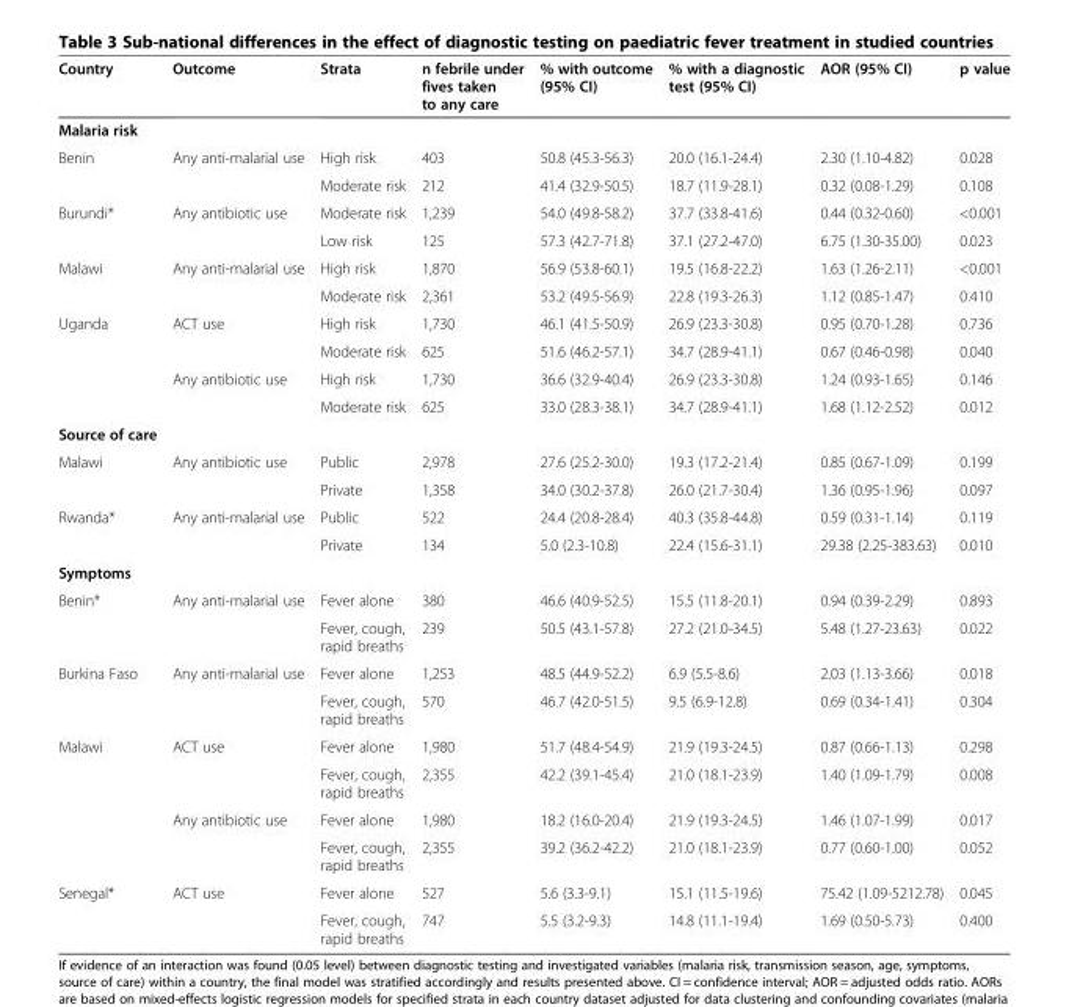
<table><thead><tr><td>Country</td><td>Outcome</td><td>Strata</td><td>n febrile under fives taken to any care</td><td>% with outcome (95% CI)</td><td>% with a diagnostic test (95% CI)</td><td>AOR (95% CI)</td><td>p value</td></tr></thead><tbody><tr><td colspan="8">Malaria risk</td></tr><tr><td rowspan="2">Benin</td><td>Any anti-malarial use</td><td>High risk</td><td>403</td><td>50.8 (45.3-56.3)</td><td>20.0 (16.1-24.4)</td><td>2.30 (1.10-4.82)</td><td>0.028</td></tr><tr><td></td><td>Moderate risk</td><td>212</td><td>41.4 (32.9-50.5)</td><td>18.7 (11.9-28.1)</td><td>0.32 (0.08-1.29)</td><td>0.108</td></tr><tr><td rowspan="2">Burundi*</td><td>Any antibiotic use</td><td>Moderate risk</td><td>1,239</td><td>54.0 (49.8-58.2)</td><td>37.7 (33.8-41.6)</td><td>0.44 (0.32-0.60)</td><td>&lt;0.001</td></tr><tr><td></td><td>Low risk</td><td>125</td><td>57.3 (42.7-71.8)</td><td>37.1 (27.2-47.0)</td><td>6.75 (1.30-35.00)</td><td>0.023</td></tr><tr><td rowspan="2">Malawi</td><td>Any anti-malarial use</td><td>High risk</td><td>1,870</td><td>56.9 (53.8-60.1)</td><td>19.5 (16.8-22.2)</td><td>1.63 (1.26-2.11)</td><td>&lt;0.001</td></tr><tr><td></td><td>Moderate risk</td><td>2,361</td><td>53.2 (49.5-56.9)</td><td>22.8 (19.3-26.3)</td><td>1.12 (0.85-1.47)</td><td>0.410</td></tr><tr><td rowspan="4">Uganda</td><td>ACT use</td><td>High risk</td><td>1,730</td><td>46.1 (41.5-50.9)</td><td>26.9 (23.3-30.8)</td><td>0.95 (0.70-1.28)</td><td>0.736</td></tr><tr><td></td><td>Moderate risk</td><td>625</td><td>51.6 (46.2-57.1)</td><td>34.7 (28.9-41.1)</td><td>0.67 (0.46-0.98)</td><td>0.040</td></tr><tr><td>Any antibiotic use</td><td>High risk</td><td>1,730</td><td>36.6 (32.9-40.4)</td><td>26.9 (23.3-30.8)</td><td>1.24 (0.93-1.65)</td><td>0.146</td></tr><tr><td></td><td>Moderate risk</td><td>625</td><td>33.0 (28.3-38.1)</td><td>34.7 (28.9-41.1)</td><td>1.68 (1.12-2.52)</td><td>0.012</td></tr><tr><td colspan="8">Source of care</td></tr><tr><td rowspan="2">Malawi</td><td>Any antibiotic use</td><td>Public</td><td>2,978</td><td>27.6 (25.2-30.0)</td><td>19.3 (17.2-21.4)</td><td>0.85 (0.67-1.09)</td><td>0.199</td></tr><tr><td></td><td>Private</td><td>1,358</td><td>34.0 (30.2-37.8)</td><td>26.0 (21.7-30.4)</td><td>1.36 (0.95-1.96)</td><td>0.097</td></tr><tr><td rowspan="2">Rwanda*</td><td>Any anti-malarial use</td><td>Public</td><td>522</td><td>24.4 (20.8-28.4)</td><td>40.3 (35.8-44.8)</td><td>0.59 (0.31-1.14)</td><td>0.119</td></tr><tr><td></td><td>Private</td><td>134</td><td>5.0 (2.3-10.8)</td><td>22.4 (15.6-31.1)</td><td>29.38 (2.25-383.63)</td><td>0.010</td></tr><tr><td colspan="8">Symptoms</td></tr><tr><td rowspan="2">Benin*</td><td>Any anti-malarial use</td><td>Fever alone</td><td>380</td><td>46.6 (40.9-52.5)</td><td>15.5 (11.8-20.1)</td><td>0.94 (0.39-2.29)</td><td>0.893</td></tr><tr><td></td><td>Fever, cough, rapid breaths</td><td>239</td><td>50.5 (43.1-57.8)</td><td>27.2 (21.0-34.5)</td><td>5.48 (1.27-23.63)</td><td>0.022</td></tr><tr><td rowspan="2">Burkina Faso</td><td>Any anti-malarial use</td><td>Fever alone</td><td>1,253</td><td>48.5 (44.9-52.2)</td><td>6.9 (5.5-8.6)</td><td>2.03 (1.13-3.66)</td><td>0.018</td></tr><tr><td></td><td>Fever, cough, rapid breaths</td><td>570</td><td>46.7 (42.0-51.5)</td><td>9.5 (6.9-12.8)</td><td>0.69 (0.34-1.41)</td><td>0.304</td></tr><tr><td rowspan="4">Malawi</td><td>ACT use</td><td>Fever alone</td><td>1,980</td><td>51.7 (48.4-54.9)</td><td>21.9 (19.3-24.5)</td><td>0.87 (0.66-1.13)</td><td>0.298</td></tr><tr><td></td><td>Fever, cough, rapid breaths</td><td>2,355</td><td>42.2 (39.1-45.4)</td><td>21.0 (18.1-23.9)</td><td>1.40 (1.09-1.79)</td><td>0.008</td></tr><tr><td>Any antibiotic use</td><td>Fever alone</td><td>1,980</td><td>18.2 (16.0-20.4)</td><td>21.9 (19.3-24.5)</td><td>1.46 (1.07-1.99)</td><td>0.017</td></tr><tr><td></td><td>Fever, cough, rapid breaths</td><td>2,355</td><td>39.2 (36.2-42.2)</td><td>21.0 (18.1-23.9)</td><td>0.77 (0.60-1.00)</td><td>0.052</td></tr><tr><td rowspan="2">Senegal*</td><td>ACT use</td><td>Fever alone</td><td>527</td><td>5.6 (3.3-9.1)</td><td>15.1 (11.5-19.6)</td><td>75.42 (1.09-5212.78)</td><td>0.045</td></tr><tr><td></td><td>Fever, cough, rapid breaths</td><td>747</td><td>5.5 (3.2-9.3)</td><td>14.8 (11.1-19.4)</td><td>1.69 (0.50-5.73)</td><td>0.400</td></tr></tbody></table>